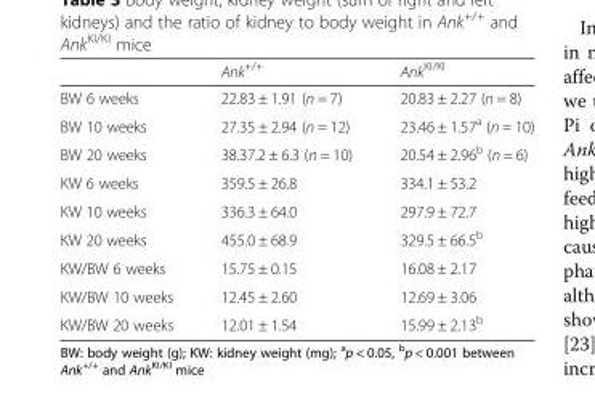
<table><thead><tr><td></td><td>Ank<sup>+/+</sup></td><td>Ank<sup>KI/KI</sup></td></tr></thead><tbody><tr><td>BW 6 weeks</td><td>22.83 ± 1.91 (n = 7)</td><td>20.83 ± 2.27 (n = 8)</td></tr><tr><td>BW 10 weeks</td><td>27.35 ± 2.94 (n = 12)</td><td>23.46 ± 1.57<sup>a</sup> (n = 10)</td></tr><tr><td>BW 20 weeks</td><td>38.37.2 ± 6.3 (n = 10)</td><td>20.54 ± 2.96<sup>b</sup> (n = 6)</td></tr><tr><td>KW 6 weeks</td><td>359.5 ± 26.8</td><td>334.1 ± 53.2</td></tr><tr><td>KW 10 weeks</td><td>336.3 ± 64.0</td><td>297.9 ± 72.7</td></tr><tr><td>KW 20 weeks</td><td>455.0 ± 68.9</td><td>329.5 ± 66.5<sup>b</sup></td></tr><tr><td>KW/BW 6 weeks</td><td>15.75 ± 0.15</td><td>16.08 ± 2.17</td></tr><tr><td>KW/BW 10 weeks</td><td>12.45 ± 2.60</td><td>12.69 ± 3.06</td></tr><tr><td>KW/BW 20 weeks</td><td>12.01 ± 1.54</td><td>15.99 ± 2.13<sup>b</sup></td></tr></tbody></table>